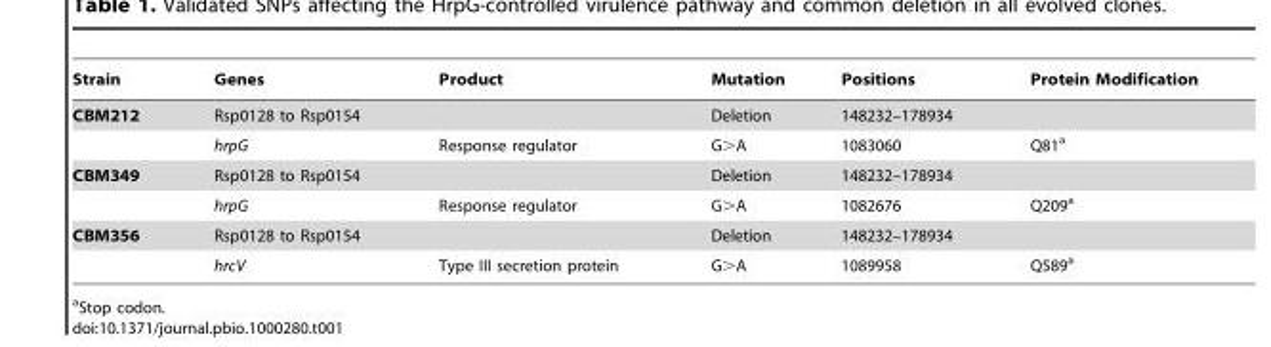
<table><thead><tr><td>Strain</td><td>Genes</td><td>Product</td><td>Mutation</td><td>Positions</td><td>Protein Modification</td></tr></thead><tbody><tr><td rowspan="2">CBM212</td><td>Rsp0128 to Rsp0154</td><td></td><td>Deletion</td><td>148232–178934</td><td></td></tr><tr><td>hrpG</td><td>Response regulator</td><td>G&gt;A</td><td>1083060</td><td>Q81<sup>a</sup></td></tr><tr><td rowspan="2">CBM349</td><td>Rsp0128 to Rsp0154</td><td></td><td>Deletion</td><td>148232–178934</td><td></td></tr><tr><td>hrpG</td><td>Response regulator</td><td>G&gt;A</td><td>1082676</td><td>Q209<sup>a</sup></td></tr><tr><td rowspan="2">CBM356</td><td>Rsp0128 to Rsp0154</td><td></td><td>Deletion</td><td>148232–178934</td><td></td></tr><tr><td>hrcV</td><td>Type III secretion protein</td><td>G&gt;A</td><td>1089958</td><td>Q589<sup>a</sup></td></tr></tbody></table>